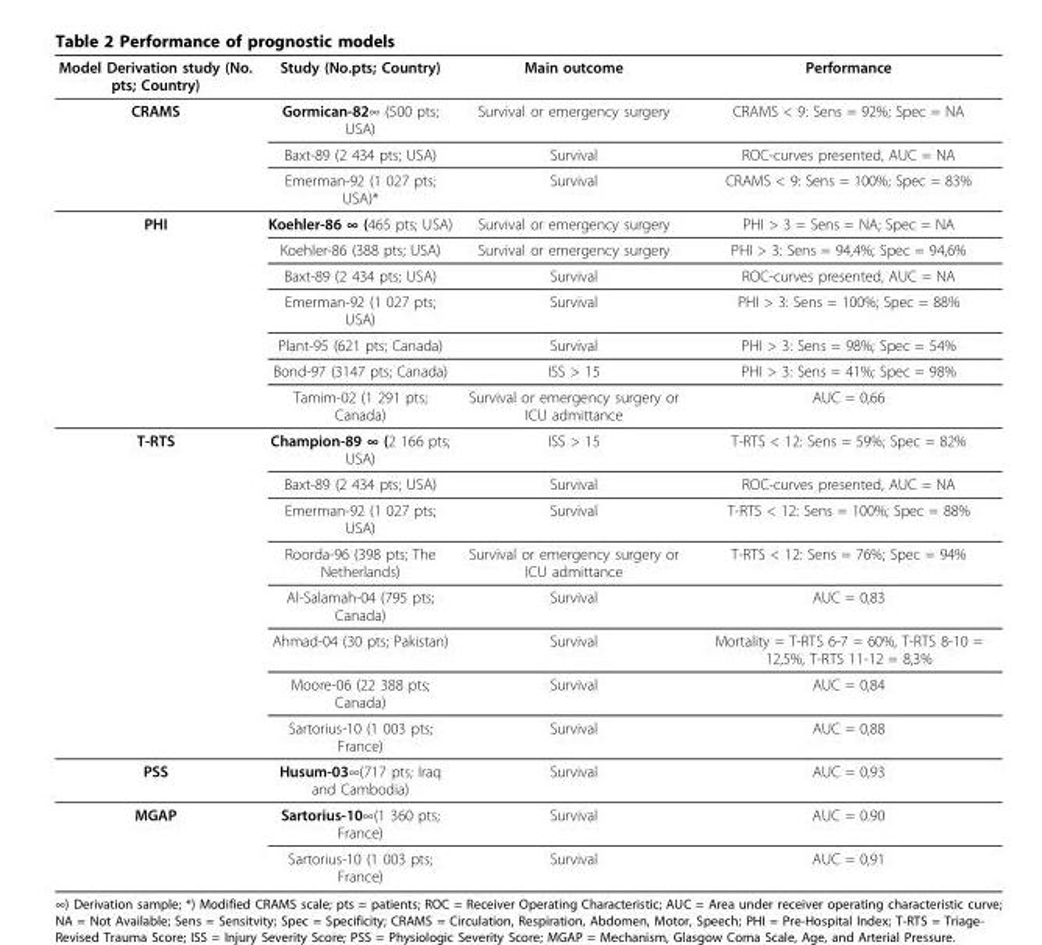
<table><thead><tr><td>Model Derivation study (No. pts; Country)</td><td>Study (No.pts; Country)</td><td>Main outcome</td><td>Performance</td></tr></thead><tbody><tr><td rowspan="3">CRAMS</td><td>Gormican-82∞ (500 pts; USA)</td><td>Survival or emergency surgery</td><td>CRAMS &lt; 9: Sens = 92%; Spec = NA</td></tr><tr><td>Baxt-89 (2 434 pts; USA)</td><td>Survival</td><td>ROC-curves presented, AUC = NA</td></tr><tr><td>Emerman-92 (1 027 pts; USA)*</td><td>Survival</td><td>CRAMS &lt; 9: Sens = 100%; Spec = 83%</td></tr><tr><td rowspan="7">PHI</td><td>Koehler-86 ∞ (465 pts; USA)</td><td>Survival or emergency surgery</td><td>PHI &gt; 3 = Sens = NA; Spec = NA</td></tr><tr><td>Koehler-86 (388 pts; USA)</td><td>Survival or emergency surgery</td><td>PHI &gt; 3: Sens = 94,4%; Spec = 94,6%</td></tr><tr><td>Baxt-89 (2 434 pts; USA)</td><td>Survival</td><td>ROC-curves presented, AUC = NA</td></tr><tr><td>Emerman-92 (1 027 pts; USA)</td><td>Survival</td><td>PHI &gt; 3: Sens = 100%; Spec = 88%</td></tr><tr><td>Plant-95 (621 pts; Canada)</td><td>Survival</td><td>PHI &gt; 3: Sens = 98%; Spec = 54%</td></tr><tr><td>Bond-97 (3147 pts; Canada)</td><td>ISS &gt; 15</td><td>PHI &gt; 3: Sens = 41%; Spec = 98%</td></tr><tr><td>Tamim-02 (1 291 pts; Canada)</td><td>Survival or emergency surgery or ICU admittance</td><td>AUC = 0,66</td></tr><tr><td rowspan="8">T-RTS</td><td>Champion-89 ∞ (2 166 pts; USA)</td><td>ISS &gt; 15</td><td>T-RTS &lt; 12: Sens = 59%; Spec = 82%</td></tr><tr><td>Baxt-89 (2 434 pts; USA)</td><td>Survival</td><td>ROC-curves presented, AUC = NA</td></tr><tr><td>Emerman-92 (1 027 pts; USA)</td><td>Survival</td><td>T-RTS &lt; 12: Sens = 100%; Spec = 88%</td></tr><tr><td>Roorda-96 (398 pts; The Netherlands)</td><td>Survival or emergency surgery or ICU admittance</td><td>T-RTS &lt; 12: Sens = 76%; Spec = 94%</td></tr><tr><td>Al-Salamah-04 (795 pts; Canada)</td><td>Survival</td><td>AUC = 0,83</td></tr><tr><td>Ahmad-04 (30 pts; Pakistan)</td><td>Survival</td><td>Mortality = T-RTS 6-7 = 60%, T-RTS 8-10 = 12,5%, T-RTS 11-12 = 8,3%</td></tr><tr><td>Moore-06 (22 388 pts; Canada)</td><td>Survival</td><td>AUC = 0,84</td></tr><tr><td>Sartorius-10 (1 003 pts; France)</td><td>Survival</td><td>AUC = 0,88</td></tr><tr><td>PSS</td><td>Husum-03∞(717 pts; Iraq and Cambodia)</td><td>Survival</td><td>AUC = 0,93</td></tr><tr><td rowspan="2">MGAP</td><td>Sartorius-10∞(1 360 pts; France)</td><td>Survival</td><td>AUC = 0.90</td></tr><tr><td>Sartorius-10 (1 003 pts; France)</td><td>Survival</td><td>AUC = 0,91</td></tr></tbody></table>